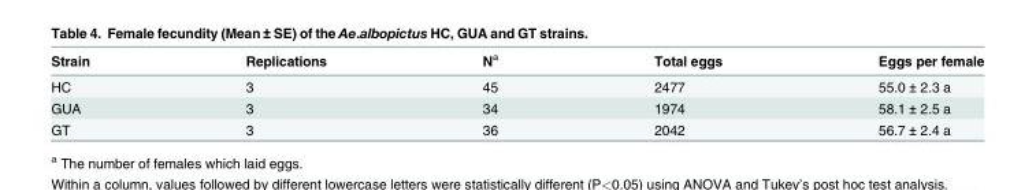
<table><thead><tr><td>Strain</td><td>Replications</td><td>N<sup>a</sup></td><td>Total eggs</td><td>Eggs per female</td></tr></thead><tbody><tr><td>HC</td><td>3</td><td>45</td><td>2477</td><td>55.0 ± 2.3 a</td></tr><tr><td>GUA</td><td>3</td><td>34</td><td>1974</td><td>58.1 ± 2.5 a</td></tr><tr><td>GT</td><td>3</td><td>36</td><td>2042</td><td>56.7 ± 2.4 a</td></tr></tbody></table>